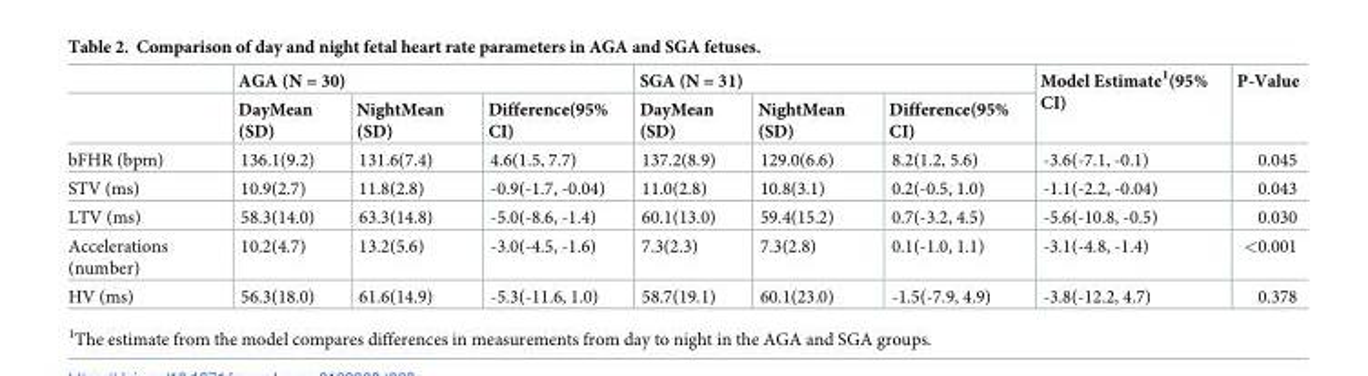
<table><thead><tr><td rowspan="2"></td><td colspan="3">AGA (N = 30)</td><td colspan="3">SGA (N = 31)</td><td rowspan="2">Model Estimate<sup>1</sup>(95% CI)</td><td rowspan="2">P-Value</td></tr><tr><td>DayMean (SD)</td><td>NightMean (SD)</td><td>Difference(95% CI)</td><td>DayMean (SD)</td><td>NightMean (SD)</td><td>Difference(95% CI)</td></tr></thead><tbody><tr><td>bFHR (bpm)</td><td>136.1(9.2)</td><td>131.6(7.4)</td><td>4.6(1.5, 7.7)</td><td>137.2(8.9)</td><td>129.0(6.6)</td><td>8.2(1.2, 5.6)</td><td>-3.6(-7.1, -0.1)</td><td>0.045</td></tr><tr><td>STV (ms)</td><td>10.9(2.7)</td><td>11.8(2.8)</td><td>-0.9(-1.7, -0.04)</td><td>11.0(2.8)</td><td>10.8(3.1)</td><td>0.2(-0.5, 1.0)</td><td>-1.1(-2.2, -0.04)</td><td>0.043</td></tr><tr><td>LTV (ms)</td><td>58.3(14.0)</td><td>63.3(14.8)</td><td>-5.0(-8.6, -1.4)</td><td>60.1(13.0)</td><td>59.4(15.2)</td><td>0.7(-3.2, 4.5)</td><td>-5.6(-10.8, -0.5)</td><td>0.030</td></tr><tr><td>Accelerations (number)</td><td>10.2(4.7)</td><td>13.2(5.6)</td><td>-3.0(-4.5, -1.6)</td><td>7.3(2.3)</td><td>7.3(2.8)</td><td>0.1(-1.0, 1.1)</td><td>-3.1(-4.8, -1.4)</td><td>&lt;0.001</td></tr><tr><td>HV (ms)</td><td>56.3(18.0)</td><td>61.6(14.9)</td><td>-5.3(-11.6, 1.0)</td><td>58.7(19.1)</td><td>60.1(23.0)</td><td>-1.5(-7.9, 4.9)</td><td>-3.8(-12.2, 4.7)</td><td>0.378</td></tr></tbody></table>